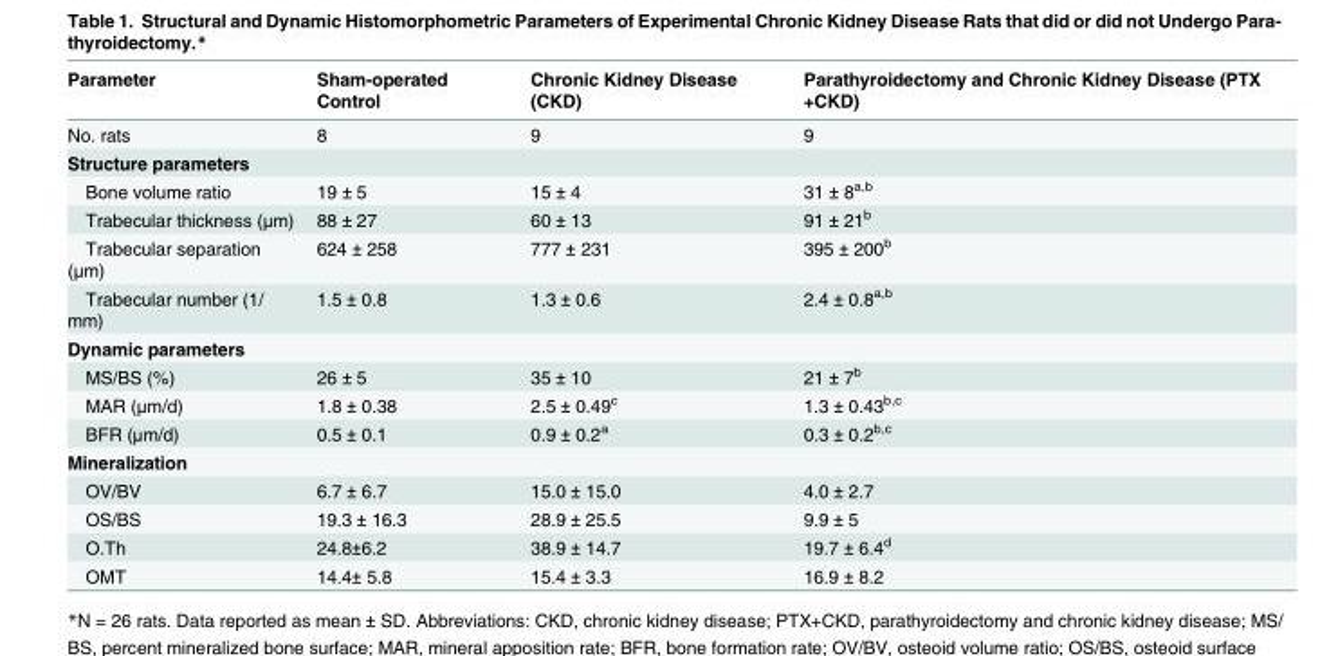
<table><thead><tr><td>Parameter</td><td>Sham-operated Control</td><td>Chronic Kidney Disease (CKD)</td><td>Parathyroidectomy and Chronic Kidney Disease (PTX +CKD)</td></tr></thead><tbody><tr><td>No. rats</td><td>8</td><td>9</td><td>9</td></tr><tr><td colspan="4">Structure parameters</td></tr><tr><td>Bone volume ratio</td><td>19 ± 5</td><td>15 ± 4</td><td>31 ± 8<sup>a,b</sup></td></tr><tr><td>Trabecular thickness (μm)</td><td>88 ± 27</td><td>60 ± 13</td><td>91 ± 21<sup>b</sup></td></tr><tr><td>Trabecular separation (μm)</td><td>624 ± 258</td><td>777 ± 231</td><td>395 ± 200<sup>b</sup></td></tr><tr><td>Trabecular number (1/ mm)</td><td>1.5 ± 0.8</td><td>1.3 ± 0.6</td><td>2.4 ± 0.8<sup>a,b</sup></td></tr><tr><td colspan="4">Dynamic parameters</td></tr><tr><td>MS/BS (%)</td><td>26 ± 5</td><td>35 ± 10</td><td>21 ± 7<sup>b</sup></td></tr><tr><td>MAR (μm/d)</td><td>1.8 ± 0.38</td><td>2.5 ± 0.49<sup>c</sup></td><td>1.3 ± 0.43<sup>b,c</sup></td></tr><tr><td>BFR (μm/d)</td><td>0.5 ± 0.1</td><td>0.9 ± 0.2<sup>a</sup></td><td>0.3 ± 0.2<sup>b,c</sup></td></tr><tr><td colspan="4">Mineralization</td></tr><tr><td>OV/BV</td><td>6.7 ± 6.7</td><td>15.0 ± 15.0</td><td>4.0 ± 2.7</td></tr><tr><td>OS/BS</td><td>19.3 ± 16.3</td><td>28.9 ± 25.5</td><td>9.9 ± 5</td></tr><tr><td>O.Th</td><td>24.8±6.2</td><td>38.9 ± 14.7</td><td>19.7 ± 6.4<sup>d</sup></td></tr><tr><td>OMT</td><td>14.4± 5.8</td><td>15.4 ± 3.3</td><td>16.9 ± 8.2</td></tr></tbody></table>